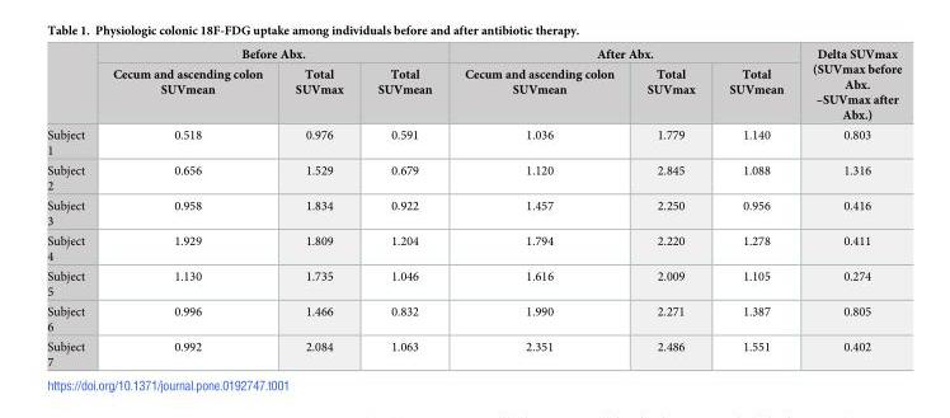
<table><thead><tr><td rowspan="2"></td><td colspan="3">Before Abx.</td><td colspan="3">After Abx.</td><td rowspan="2">Delta SUVmax (SUVmax before Abx. –SUVmax after Abx.)</td></tr><tr><td>Cecum and ascending colon SUVmean</td><td>Total SUVmax</td><td>Total SUVmean</td><td>Cecum and ascending colon SUVmean</td><td>Total SUVmax</td><td>Total SUVmean</td></tr></thead><tbody><tr><td>Subject 1</td><td>0.518</td><td>0.976</td><td>0.591</td><td>1.036</td><td>1.779</td><td>1.140</td><td>0.803</td></tr><tr><td>Subject 2</td><td>0.656</td><td>1.529</td><td>0.679</td><td>1.120</td><td>2.845</td><td>1.088</td><td>1.316</td></tr><tr><td>Subject 3</td><td>0.958</td><td>1.834</td><td>0.922</td><td>1.457</td><td>2.250</td><td>0.956</td><td>0.416</td></tr><tr><td>Subject 4</td><td>1.929</td><td>1.809</td><td>1.204</td><td>1.794</td><td>2.220</td><td>1.278</td><td>0.411</td></tr><tr><td>Subject 5</td><td>1.130</td><td>1.735</td><td>1.046</td><td>1.616</td><td>2.009</td><td>1.105</td><td>0.274</td></tr><tr><td>Subject 6</td><td>0.996</td><td>1.466</td><td>0.832</td><td>1.990</td><td>2.271</td><td>1.387</td><td>0.805</td></tr><tr><td>Subject 7</td><td>0.992</td><td>2.084</td><td>1.063</td><td>2.351</td><td>2.486</td><td>1.551</td><td>0.402</td></tr></tbody></table>